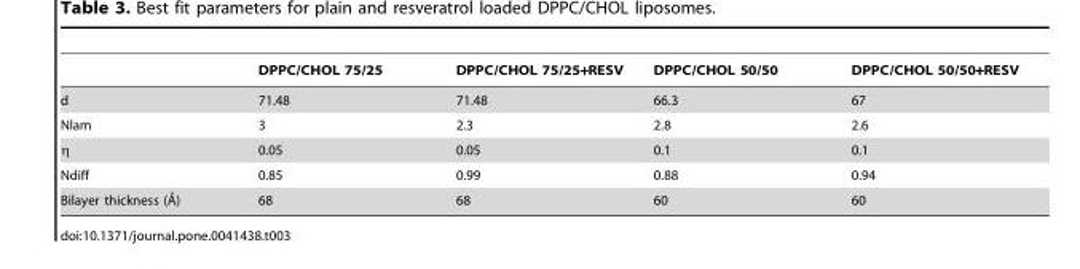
<table><thead><tr><td></td><td>DPPC/CHOL 75/25</td><td>DPPC/CHOL 75/25+RESV</td><td>DPPC/CHOL 50/50</td><td>DPPC/CHOL 50/50+RESV</td></tr></thead><tbody><tr><td>d</td><td>71.48</td><td>71.48</td><td>66.3</td><td>67</td></tr><tr><td>Nlam</td><td>3</td><td>2.3</td><td>2.8</td><td>2.6</td></tr><tr><td>η</td><td>0.05</td><td>0.05</td><td>0.1</td><td>0.1</td></tr><tr><td>Ndiff</td><td>0.85</td><td>0.99</td><td>0.88</td><td>0.94</td></tr><tr><td>Bilayer thickness (A˚)</td><td>68</td><td>68</td><td>60</td><td>60</td></tr></tbody></table>